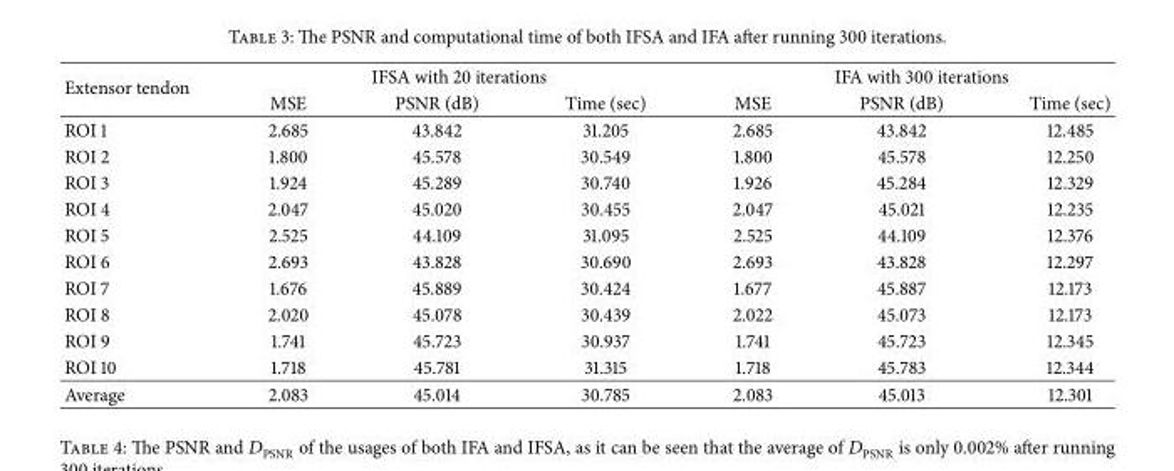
<table><thead><tr><td rowspan="2">Extensor tendon</td><td colspan="3">IFSA with 20 iterations</td><td colspan="3">IFA with 300 iterations</td></tr><tr><td>MSE</td><td>PSNR (dB)</td><td>Time (sec)</td><td>MSE</td><td>PSNR (dB)</td><td>Time (sec)</td></tr></thead><tbody><tr><td>ROI 1</td><td>2.685</td><td>43.842</td><td>31.205</td><td>2.685</td><td>43.842</td><td>12.485</td></tr><tr><td>ROI 2</td><td>1.800</td><td>45.578</td><td>30.549</td><td>1.800</td><td>45.578</td><td>12.250</td></tr><tr><td>ROI 3</td><td>1.924</td><td>45.289</td><td>30.740</td><td>1.926</td><td>45.284</td><td>12.329</td></tr><tr><td>ROI 4</td><td>2.047</td><td>45.020</td><td>30.455</td><td>2.047</td><td>45.021</td><td>12.235</td></tr><tr><td>ROI 5</td><td>2.525</td><td>44.109</td><td>31.095</td><td>2.525</td><td>44.109</td><td>12.376</td></tr><tr><td>ROI 6</td><td>2.693</td><td>43.828</td><td>30.690</td><td>2.693</td><td>43.828</td><td>12.297</td></tr><tr><td>ROI 7</td><td>1.676</td><td>45.889</td><td>30.424</td><td>1.677</td><td>45.887</td><td>12.173</td></tr><tr><td>ROI 8</td><td>2.020</td><td>45.078</td><td>30.439</td><td>2.022</td><td>45.073</td><td>12.173</td></tr><tr><td>ROI 9</td><td>1.741</td><td>45.723</td><td>30.937</td><td>1.741</td><td>45.723</td><td>12.345</td></tr><tr><td>ROI 10</td><td>1.718</td><td>45.781</td><td>31.315</td><td>1.718</td><td>45.783</td><td>12.344</td></tr><tr><td>Average</td><td>2.083</td><td>45.014</td><td>30.785</td><td>2.083</td><td>45.013</td><td>12.301</td></tr></tbody></table>